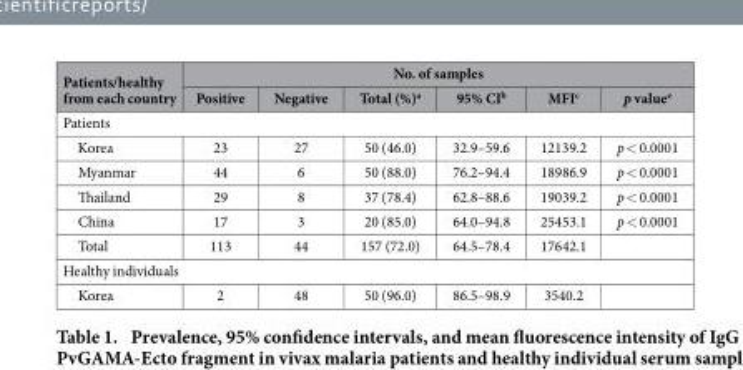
<table><thead><tr><td rowspan="2">Patients/healthy from each country</td><td colspan="6">No. of samples</td></tr><tr><td>Positive</td><td>Negative</td><td>Total (%)<sup>a</sup></td><td>95% CI<sup>b</sup></td><td>MFI<sup>c</sup></td><td>p value<sup>e</sup></td></tr></thead><tbody><tr><td colspan="7">Patients</td></tr><tr><td>Korea</td><td>23</td><td>27</td><td>50 (46.0)</td><td>32.9–59.6</td><td>12139.2</td><td>p &lt; 0.0001</td></tr><tr><td>Myanmar</td><td>44</td><td>6</td><td>50 (88.0)</td><td>76.2–94.4</td><td>18986.9</td><td>p &lt; 0.0001</td></tr><tr><td>Thailand</td><td>29</td><td>8</td><td>37 (78.4)</td><td>62.8–88.6</td><td>19039.2</td><td>p &lt; 0.0001</td></tr><tr><td>China</td><td>17</td><td>3</td><td>20 (85.0)</td><td>64.0–94.8</td><td>25453.1</td><td>p &lt; 0.0001</td></tr><tr><td>Total</td><td>113</td><td>44</td><td>157 (72.0)</td><td>64.5–78.4</td><td>17642.1</td><td></td></tr><tr><td colspan="7">Healthy individuals</td></tr><tr><td>Korea</td><td>2</td><td>48</td><td>50 (96.0)</td><td>86.5–98.9</td><td>3540.2</td><td></td></tr></tbody></table>